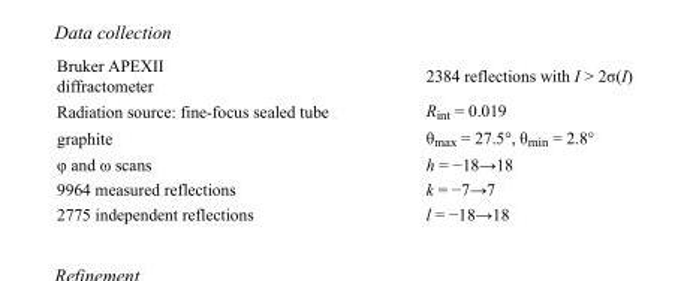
<table><tbody><tr><td>Bruker APEXII diffractometer</td><td>2384 reflections with I &gt; 2σ(I)</td></tr><tr><td>Radiation source: fine-focus sealed tube</td><td>R<sub>int</sub> = 0.019</td></tr><tr><td>graphite</td><td>θ<sub>max</sub> = 27.5°, θ<sub>min</sub> = 2.8°</td></tr><tr><td>φ and ω scans</td><td>h = −18→18</td></tr><tr><td>9964 measured reflections</td><td>k = −7→7</td></tr><tr><td>2775 independent reflections</td><td>l = −18→18</td></tr></tbody></table>